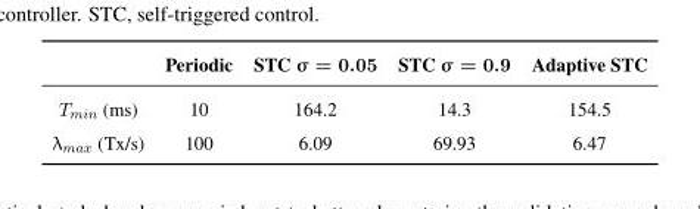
<table><thead><tr><td></td><td>Periodic</td><td>STC σ = 0.05</td><td>STC σ = 0.9</td><td>Adaptive STC</td></tr></thead><tbody><tr><td>T<sub>min</sub> (ms)</td><td>10</td><td>164.2</td><td>14.3</td><td>154.5</td></tr><tr><td>λ<sub>max</sub> (Tx/s)</td><td>100</td><td>6.09</td><td>69.93</td><td>6.47</td></tr></tbody></table>